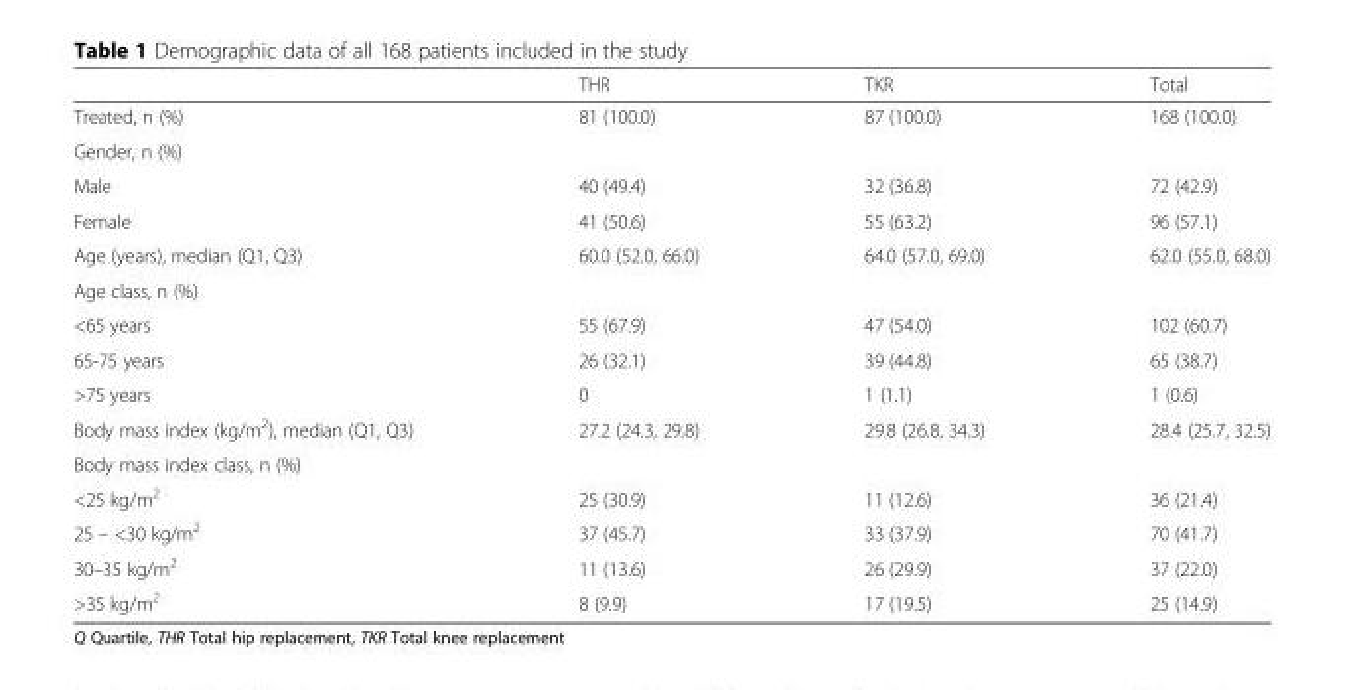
<table><thead><tr><td></td><td>THR</td><td>TKR</td><td>Total</td></tr></thead><tbody><tr><td>Treated, n (%)</td><td>81 (100.0)</td><td>87 (100.0)</td><td>168 (100.0)</td></tr><tr><td colspan="4">Gender, n (%)</td></tr><tr><td>Male</td><td>40 (49.4)</td><td>32 (36.8)</td><td>72 (42.9)</td></tr><tr><td>Female</td><td>41 (50.6)</td><td>55 (63.2)</td><td>96 (57.1)</td></tr><tr><td>Age (years), median (Q1, Q3)</td><td>60.0 (52.0, 66.0)</td><td>64.0 (57.0, 69.0)</td><td>62.0 (55.0, 68.0)</td></tr><tr><td colspan="4">Age class, n (%)</td></tr><tr><td>&lt;65 years</td><td>55 (67.9)</td><td>47 (54.0)</td><td>102 (60.7)</td></tr><tr><td>65-75 years</td><td>26 (32.1)</td><td>39 (44.8)</td><td>65 (38.7)</td></tr><tr><td>&gt;75 years</td><td>0</td><td>1 (1.1)</td><td>1 (0.6)</td></tr><tr><td>Body mass index (kg/m<sup>2</sup>), median (Q1, Q3)</td><td>27.2 (24.3, 29.8)</td><td>29.8 (26.8, 34.3)</td><td>28.4 (25.7, 32.5)</td></tr><tr><td colspan="4">Body mass index class, n (%)</td></tr><tr><td>&lt;25 kg/m<sup>2</sup></td><td>25 (30.9)</td><td>11 (12.6)</td><td>36 (21.4)</td></tr><tr><td>25 – &lt;30 kg/m<sup>2</sup></td><td>37 (45.7)</td><td>33 (37.9)</td><td>70 (41.7)</td></tr><tr><td>30–35 kg/m<sup>2</sup></td><td>11 (13.6)</td><td>26 (29.9)</td><td>37 (22.0)</td></tr><tr><td>&gt;35 kg/m<sup>2</sup></td><td>8 (9.9)</td><td>17 (19.5)</td><td>25 (14.9)</td></tr></tbody></table>